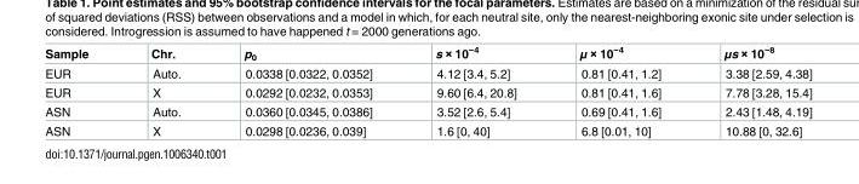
<table><thead><tr><td>Sample</td><td>Chr.</td><td>p<sub>0</sub></td><td>s × 10<sup>−4</sup></td><td>μ × 10<sup>−4</sup></td><td>μs × 10<sup>−8</sup></td></tr></thead><tbody><tr><td>EUR</td><td>Auto.</td><td>0.0338 [0.0322, 0.0352]</td><td>4.12 [3.4, 5.2]</td><td>0.81 [0.41, 1.2]</td><td>3.38 [2.59, 4.38]</td></tr><tr><td>EUR</td><td>X</td><td>0.0292 [0.0232, 0.0353]</td><td>9.60 [6.4, 20.8]</td><td>0.81 [0.41, 1.6]</td><td>7.78 [3.28, 15.4]</td></tr><tr><td>ASN</td><td>Auto.</td><td>0.0360 [0.0345, 0.0386]</td><td>3.52 [2.6, 5.4]</td><td>0.69 [0.41, 1.6]</td><td>2.43 [1.48, 4.19]</td></tr><tr><td>ASN</td><td>X</td><td>0.0298 [0.0236, 0.039]</td><td>1.6 [0, 40]</td><td>6.8 [0.01, 10]</td><td>10.88 [0, 32.6]</td></tr></tbody></table>